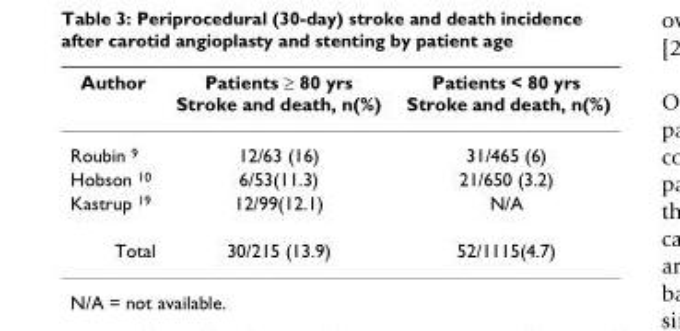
<table><thead><tr><td>Author</td><td>Patients ≥ 80 yrs Stroke and death, n(%)</td><td>Patients &lt; 80 yrs Stroke and death, n(%)</td></tr></thead><tbody><tr><td>Roubin <sup>9</sup></td><td>12/63 (16)</td><td>31/465 (6)</td></tr><tr><td>Hobson <sup>10</sup></td><td>6/53(11.3)</td><td>21/650 (3.2)</td></tr><tr><td>Kastrup <sup>19</sup></td><td>12/99(12.1)</td><td>N/A</td></tr><tr><td>Total</td><td>30/215 (13.9)</td><td>52/1115(4.7)</td></tr></tbody></table>